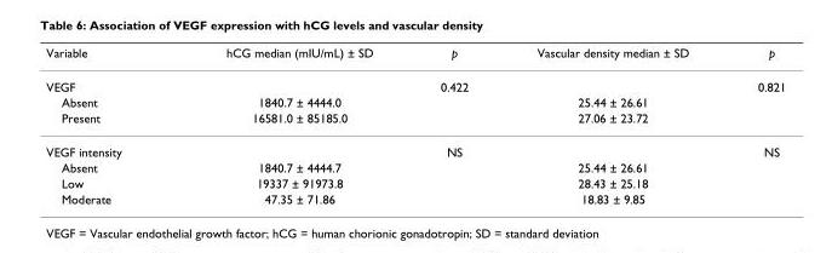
<table><thead><tr><td>Variable</td><td>hCG median (mIU/mL) ± SD</td><td>p</td><td>Vascular density median ± SD</td><td>p</td></tr></thead><tbody><tr><td>VEGF</td><td></td><td>0.422</td><td></td><td>0.821</td></tr><tr><td>Absent</td><td>1840.7 ± 4444.0</td><td></td><td>25.44 ± 26.61</td><td></td></tr><tr><td>Present</td><td>16581.0 ± 85185.0</td><td></td><td>27.06 ± 23.72</td><td></td></tr><tr><td>VEGF intensity</td><td></td><td>NS</td><td></td><td>NS</td></tr><tr><td>Absent</td><td>1840.7 ± 4444.7</td><td></td><td>25.44 ± 26.61</td><td></td></tr><tr><td>Low</td><td>19337 ± 91973.8</td><td></td><td>28.43 ± 25.18</td><td></td></tr><tr><td>Moderate</td><td>47.35 ± 71.86</td><td></td><td>18.83 ± 9.85</td><td></td></tr></tbody></table>